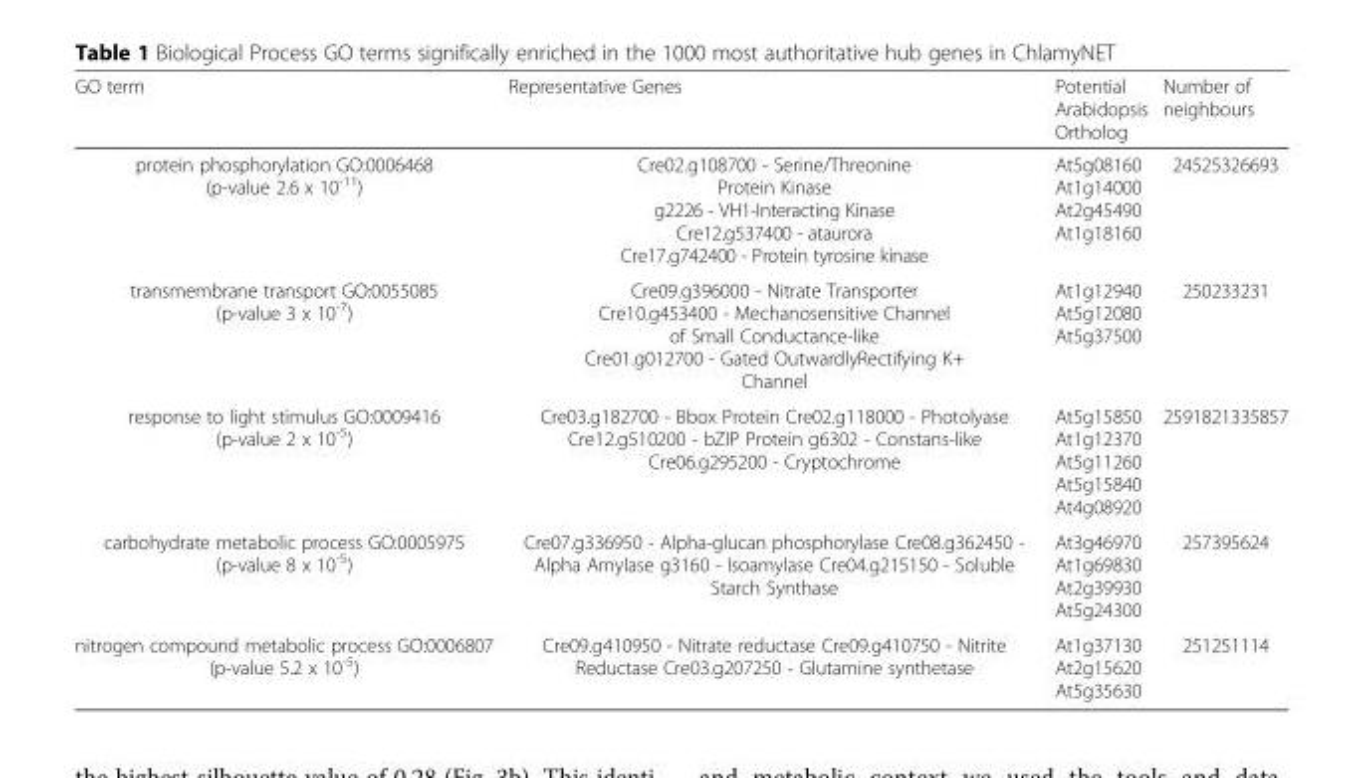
<table><thead><tr><td>GO term</td><td>Representative Genes</td><td>Potential Arabidopsis Ortholog</td><td>Number of neighbours</td></tr></thead><tbody><tr><td>protein phosphorylation GO:0006468 (p-value 2.6 x 10<sup>-11</sup>)</td><td>Cre02.g108700 - Serine/Threonine Protein Kinase g2226 - VH1-Interacting Kinase Cre12.g537400 - ataurora Cre17.g742400 - Protein tyrosine kinase</td><td>At5g08160 At1g14000 At2g45490 At1g18160</td><td>24525326693</td></tr><tr><td>transmembrane transport GO:0055085 (p-value 3 x 10<sup>-7</sup>)</td><td>Cre09.g396000 - Nitrate Transporter Cre10.g453400 - Mechanosensitive Channel of Small Conductance-like Cre01.g012700 - Gated OutwardlyRectifying K+ Channel</td><td>At1g12940 At5g12080 At5g37500</td><td>250233231</td></tr><tr><td>response to light stimulus GO:0009416 (p-value 2 x 10<sup>-5</sup>)</td><td>Cre03.g182700 - Bbox Protein Cre02.g118000 - Photolyase Cre12.g510200 - bZIP Protein g6302 - Constans-like Cre06.g295200 - Cryptochrome</td><td>At5g15850 At1g12370 At5g11260 At5g15840 At4g08920</td><td>2591821335857</td></tr><tr><td>carbohydrate metabolic process GO:0005975 (p-value 8 x 10<sup>-5</sup>)</td><td>Cre07.g336950 - Alpha-glucan phosphorylase Cre08.g362450 - Alpha Amylase g3160 - Isoamylase Cre04.g215150 - Soluble Starch Synthase</td><td>At3g46970 At1g69830 At2g39930 At5g24300</td><td>257395624</td></tr><tr><td>nitrogen compound metabolic process GO:0006807 (p-value 5.2 x 10<sup>-5</sup>)</td><td>Cre09.g410950 - Nitrate reductase Cre09.g410750 - Nitrite Reductase Cre03.g207250 - Glutamine synthetase</td><td>At1g37130 At2g15620 At5g35630</td><td>251251114</td></tr></tbody></table>